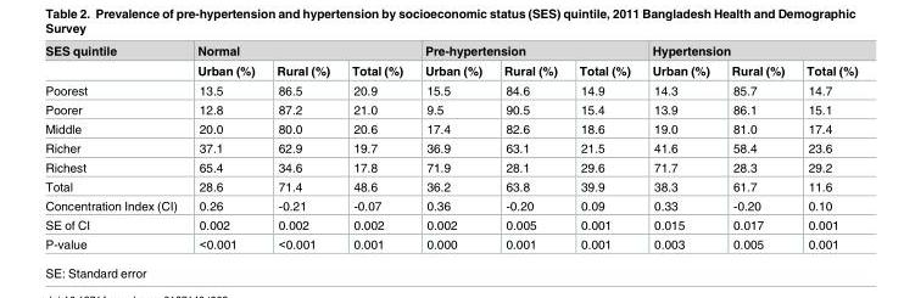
<table><thead><tr><td rowspan="2">SES quintile</td><td colspan="3">Normal</td><td colspan="3">Pre-hypertension</td><td colspan="3">Hypertension</td></tr><tr><td>Urban (%)</td><td>Rural (%)</td><td>Total (%)</td><td>Urban (%)</td><td>Rural (%)</td><td>Total (%)</td><td>Urban (%)</td><td>Rural (%)</td><td>Total (%)</td></tr></thead><tbody><tr><td>Poorest</td><td>13.5</td><td>86.5</td><td>20.9</td><td>15.5</td><td>84.6</td><td>14.9</td><td>14.3</td><td>85.7</td><td>14.7</td></tr><tr><td>Poorer</td><td>12.8</td><td>87.2</td><td>21.0</td><td>9.5</td><td>90.5</td><td>15.4</td><td>13.9</td><td>86.1</td><td>15.1</td></tr><tr><td>Middle</td><td>20.0</td><td>80.0</td><td>20.6</td><td>17.4</td><td>82.6</td><td>18.6</td><td>19.0</td><td>81.0</td><td>17.4</td></tr><tr><td>Richer</td><td>37.1</td><td>62.9</td><td>19.7</td><td>36.9</td><td>63.1</td><td>21.5</td><td>41.6</td><td>58.4</td><td>23.6</td></tr><tr><td>Richest</td><td>65.4</td><td>34.6</td><td>17.8</td><td>71.9</td><td>28.1</td><td>29.6</td><td>71.7</td><td>28.3</td><td>29.2</td></tr><tr><td>Total</td><td>28.6</td><td>71.4</td><td>48.6</td><td>36.2</td><td>63.8</td><td>39.9</td><td>38.3</td><td>61.7</td><td>11.6</td></tr><tr><td>Concentration Index (CI)</td><td>0.26</td><td>-0.21</td><td>-0.07</td><td>0.36</td><td>-0.20</td><td>0.09</td><td>0.33</td><td>-0.20</td><td>0.10</td></tr><tr><td>SE of CI</td><td>0.002</td><td>0.002</td><td>0.002</td><td>0.002</td><td>0.005</td><td>0.001</td><td>0.015</td><td>0.017</td><td>0.001</td></tr><tr><td>P-value</td><td>&lt;0.001</td><td>&lt;0.001</td><td>0.001</td><td>0.000</td><td>0.001</td><td>0.001</td><td>0.003</td><td>0.005</td><td>0.001</td></tr></tbody></table>